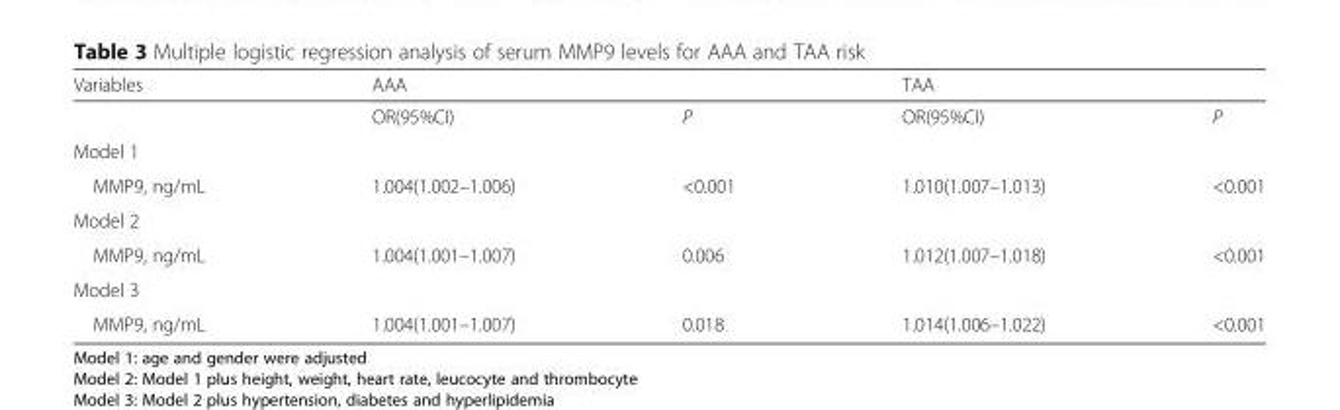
<table><thead><tr><td rowspan="2">Variables</td><td colspan="2">AAA</td><td colspan="2">TAA</td></tr><tr><td>OR(95%CI)</td><td>P</td><td>OR(95%CI)</td><td>P</td></tr></thead><tbody><tr><td colspan="5">Model 1</td></tr><tr><td>MMP9, ng/mL</td><td>1.004(1.002–1.006)</td><td>&lt;0.001</td><td>1.010(1.007–1.013)</td><td>&lt;0.001</td></tr><tr><td colspan="5">Model 2</td></tr><tr><td>MMP9, ng/mL</td><td>1.004(1.001–1.007)</td><td>0.006</td><td>1.012(1.007–1.018)</td><td>&lt;0.001</td></tr><tr><td colspan="5">Model 3</td></tr><tr><td>MMP9, ng/mL</td><td>1.004(1.001–1.007)</td><td>0.018</td><td>1.014(1.006–1.022)</td><td>&lt;0.001</td></tr></tbody></table>